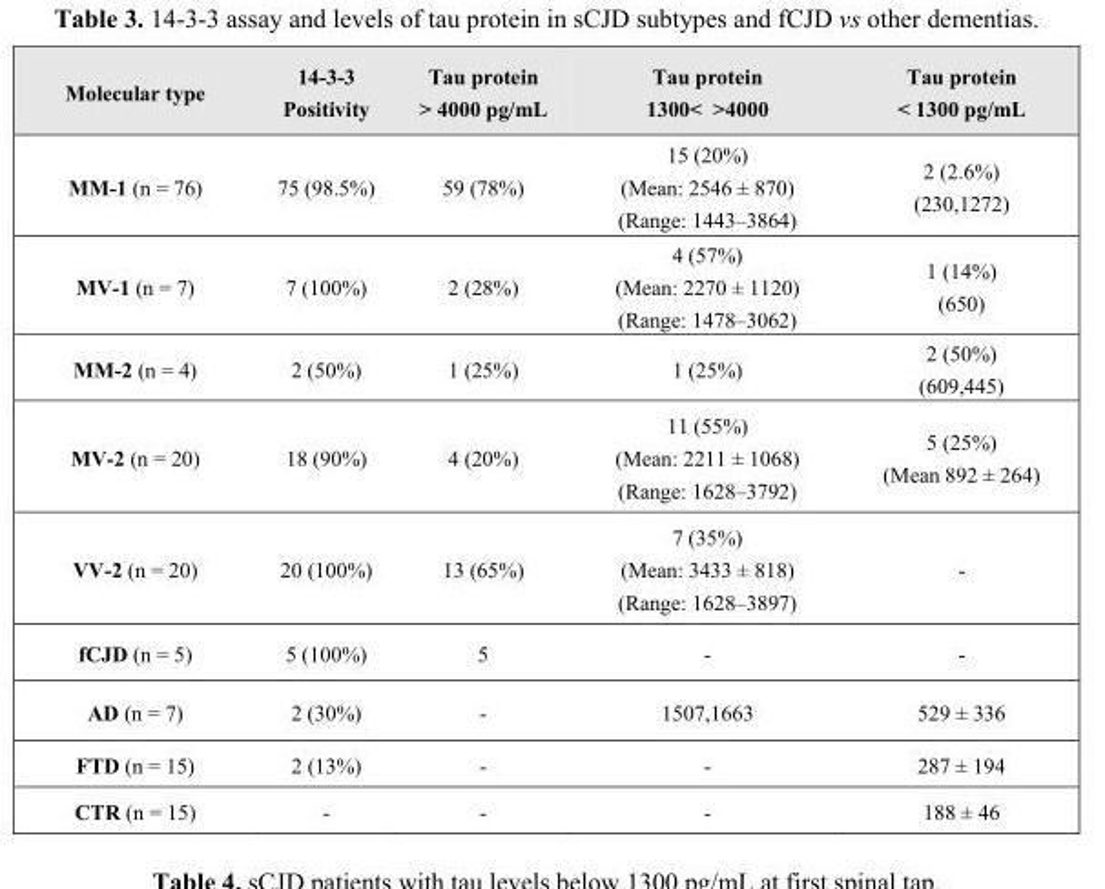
<table><thead><tr><td>Molecular type</td><td>14-3-3 Positivity</td><td>Tau protein &gt; 4000 pg/mL</td><td>Tau protein 1300&lt; &gt;4000</td><td>Tau protein &lt; 1300 pg/mL</td></tr></thead><tbody><tr><td>MM-1 (n = 76)</td><td>75 (98.5%)</td><td>59 (78%)</td><td>15 (20%) (Mean: 2546 ± 870) (Range: 1443–3864)</td><td>2 (2.6%) (230,1272)</td></tr><tr><td>MV-1 (n = 7)</td><td>7 (100%)</td><td>2 (28%)</td><td>4 (57%) (Mean: 2270 ± 1120) (Range: 1478–3062)</td><td>1 (14%) (650)</td></tr><tr><td>MM-2 (n = 4)</td><td>2 (50%)</td><td>1 (25%)</td><td>1 (25%)</td><td>2 (50%) (609,445)</td></tr><tr><td>MV-2 (n = 20)</td><td>18 (90%)</td><td>4 (20%)</td><td>11 (55%) (Mean: 2211 ± 1068) (Range: 1628–3792)</td><td>5 (25%) (Mean 892 ± 264)</td></tr><tr><td>VV-2 (n = 20)</td><td>20 (100%)</td><td>13 (65%)</td><td>7 (35%) (Mean: 3433 ± 818) (Range: 1628–3897)</td><td>-</td></tr><tr><td>fCJD (n = 5)</td><td>5 (100%)</td><td>5</td><td>-</td><td>-</td></tr><tr><td>AD (n = 7)</td><td>2 (30%)</td><td>-</td><td>1507,1663</td><td>529 ± 336</td></tr><tr><td>FTD (n = 15)</td><td>2 (13%)</td><td>-</td><td>-</td><td>287 ± 194</td></tr><tr><td>CTR (n = 15)</td><td>-</td><td>-</td><td>-</td><td>188 ± 46</td></tr></tbody></table>